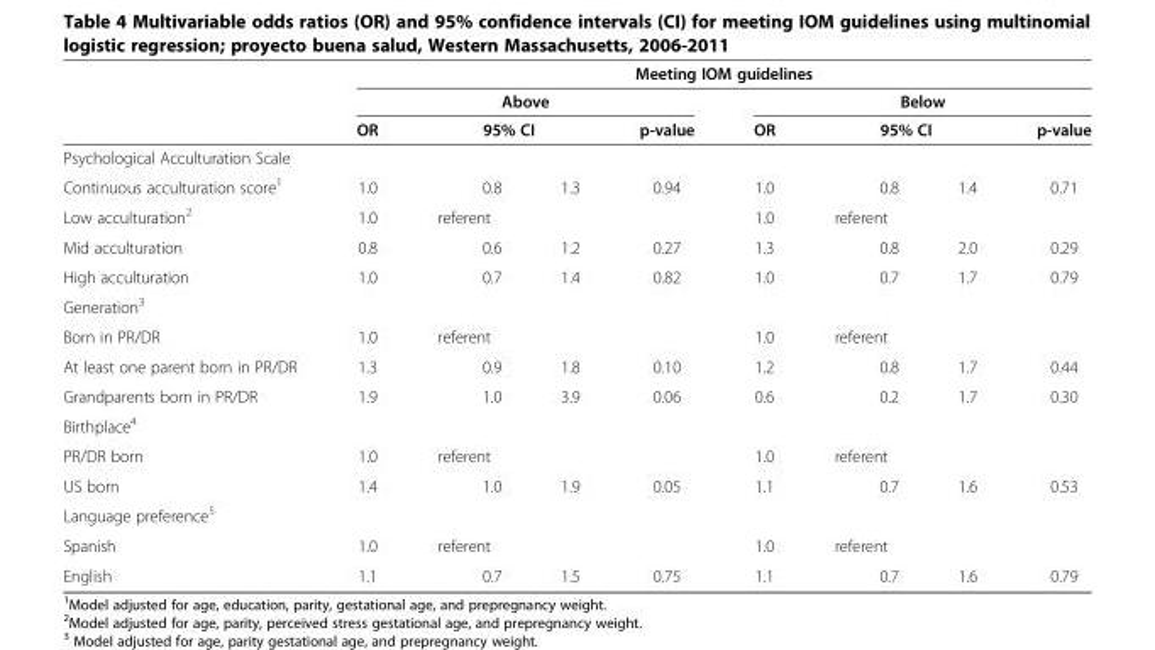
<table><thead><tr><td rowspan="4">Psychological Acculturation Scale</td><td colspan="8">Meeting IOM guidelines</td></tr><tr><td colspan="4">Above</td><td colspan="4">Below</td></tr><tr><td rowspan="2">OR</td><td colspan="2">95% CI</td><td rowspan="2">p-value</td><td rowspan="2">OR</td><td colspan="2">95% CI</td><td rowspan="2">p-value</td></tr><tr><td></td><td></td><td></td><td></td></tr></thead><tbody><tr><td>Continuous acculturation score<sup>1</sup></td><td>1.0</td><td>0.8</td><td>1.3</td><td>0.94</td><td>1.0</td><td>0.8</td><td>1.4</td><td>0.71</td></tr><tr><td>Low acculturation<sup>2</sup></td><td>1.0</td><td>referent</td><td></td><td></td><td>1.0</td><td>referent</td><td></td><td></td></tr><tr><td>Mid acculturation</td><td>0.8</td><td>0.6</td><td>1.2</td><td>0.27</td><td>1.3</td><td>0.8</td><td>2.0</td><td>0.29</td></tr><tr><td>High acculturation</td><td>1.0</td><td>0.7</td><td>1.4</td><td>0.82</td><td>1.0</td><td>0.7</td><td>1.7</td><td>0.79</td></tr><tr><td colspan="9">Generation<sup>3</sup></td></tr><tr><td>Born in PR/DR</td><td>1.0</td><td>referent</td><td></td><td></td><td>1.0</td><td>referent</td><td></td><td></td></tr><tr><td>At least one parent born in PR/DR</td><td>1.3</td><td>0.9</td><td>1.8</td><td>0.10</td><td>1.2</td><td>0.8</td><td>1.7</td><td>0.44</td></tr><tr><td>Grandparents born in PR/DR</td><td>1.9</td><td>1.0</td><td>3.9</td><td>0.06</td><td>0.6</td><td>0.2</td><td>1.7</td><td>0.30</td></tr><tr><td colspan="9">Birthplace<sup>4</sup></td></tr><tr><td>PR/DR born</td><td>1.0</td><td>referent</td><td></td><td></td><td>1.0</td><td>referent</td><td></td><td></td></tr><tr><td>US born</td><td>1.4</td><td>1.0</td><td>1.9</td><td>0.05</td><td>1.1</td><td>0.7</td><td>1.6</td><td>0.53</td></tr><tr><td colspan="9">Language preference<sup>5</sup></td></tr><tr><td>Spanish</td><td>1.0</td><td>referent</td><td></td><td></td><td>1.0</td><td>referent</td><td></td><td></td></tr><tr><td>English</td><td>1.1</td><td>0.7</td><td>1.5</td><td>0.75</td><td>1.1</td><td>0.7</td><td>1.6</td><td>0.79</td></tr></tbody></table>